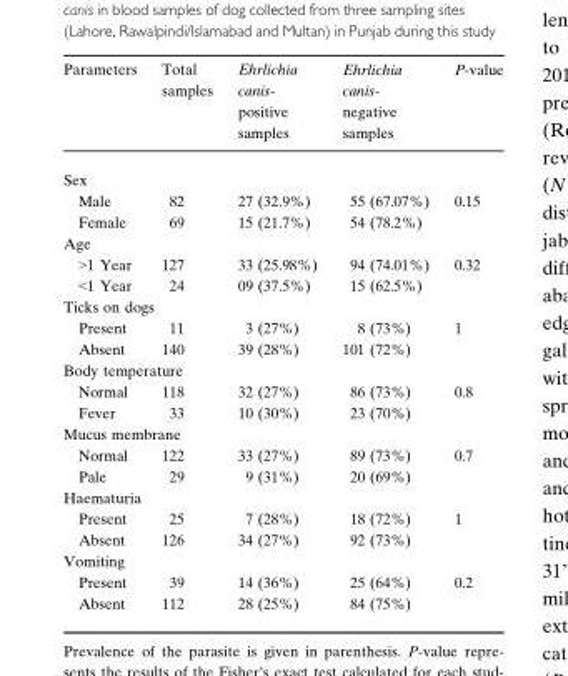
<table><thead><tr><td>Parameters</td><td>Total samples</td><td>Ehrlichia canis- positive samples</td><td>Ehrlichia canis- negative samples</td><td>P-value</td></tr></thead><tbody><tr><td colspan="5">Sex</td></tr><tr><td>Male</td><td>82</td><td>27 (32.9%)</td><td>55 (67.07%)</td><td rowspan="2">0.15</td></tr><tr><td>Female</td><td>69</td><td>15 (21.7%)</td><td>54 (78.2%)</td></tr><tr><td colspan="5">Age</td></tr><tr><td>&gt;1 Year</td><td>127</td><td>33 (25.98%)</td><td>94 (74.01%)</td><td rowspan="2">0.32</td></tr><tr><td>&lt;1 Year</td><td>24</td><td>09 (37.5%)</td><td>15 (62.5%)</td></tr><tr><td colspan="5">Ticks on dogs</td></tr><tr><td>Present</td><td>11</td><td>3 (27%)</td><td>8 (73%)</td><td rowspan="2">1</td></tr><tr><td>Absent</td><td>140</td><td>39 (28%)</td><td>101 (72%)</td></tr><tr><td colspan="5">Body temperature</td></tr><tr><td>Normal</td><td>118</td><td>32 (27%)</td><td>86 (73%)</td><td rowspan="2">0.8</td></tr><tr><td>Fever</td><td>33</td><td>10 (30%)</td><td>23 (70%)</td></tr><tr><td colspan="5">Mucus membrane</td></tr><tr><td>Normal</td><td>122</td><td>33 (27%)</td><td>89 (73%)</td><td rowspan="2">0.7</td></tr><tr><td>Pale</td><td>29</td><td>9 (31%)</td><td>20 (69%)</td></tr><tr><td colspan="5">Haematuria</td></tr><tr><td>Present</td><td>25</td><td>7 (28%)</td><td>18 (72%)</td><td rowspan="2">1</td></tr><tr><td>Absent</td><td>126</td><td>34 (27%)</td><td>92 (73%)</td></tr><tr><td colspan="5">Vomiting</td></tr><tr><td>Present</td><td>39</td><td>14 (36%)</td><td>25 (64%)</td><td rowspan="2">0.2</td></tr><tr><td>Absent</td><td>112</td><td>28 (25%)</td><td>84 (75%)</td></tr></tbody></table>